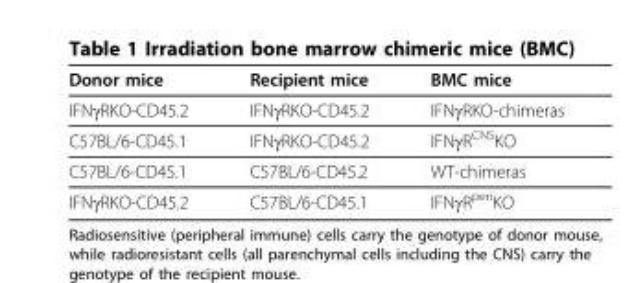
<table><thead><tr><td>Donor mice</td><td>Recipient mice</td><td>BMC mice</td></tr></thead><tbody><tr><td>IFNγRKO-CD45.2</td><td>IFNγRKO-CD45.2</td><td>IFNγRKO-chimeras</td></tr><tr><td>C57BL/6-CD45.1</td><td>IFNγRKO-CD45.2</td><td>IFNγR<sup>CNS</sup>KO</td></tr><tr><td>C57BL/6-CD45.1</td><td>C57BL/6-CD45.2</td><td>WT-chimeras</td></tr><tr><td>IFNγRKO-CD45.2</td><td>C57BL/6-CD45.1</td><td>IFNγR<sup>peri</sup>KO</td></tr></tbody></table>